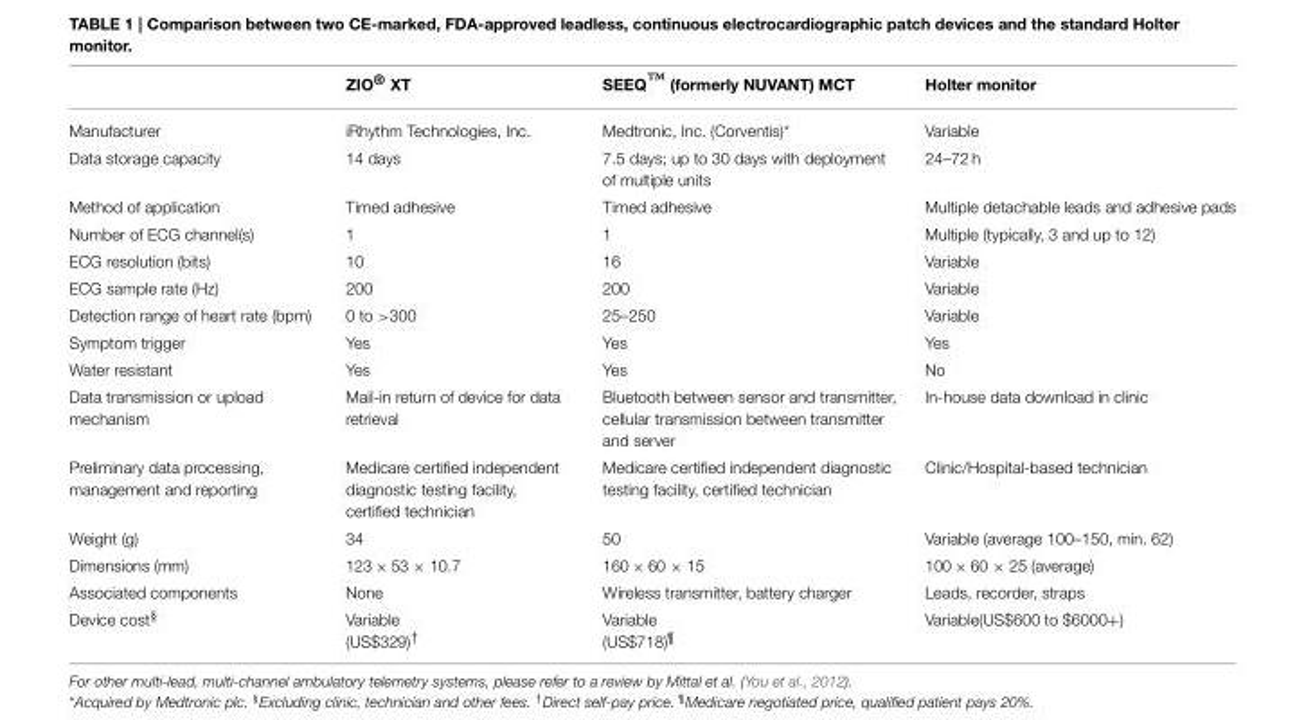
<table><thead><tr><td></td><td>ZIO® XT</td><td>SEEQ™ (formerly NUVANT) MCT</td><td>Holter monitor</td></tr></thead><tbody><tr><td>Manufacturer</td><td>iRhythm Technologies, Inc.</td><td>Medtronic, Inc. (Corventis)*</td><td>Variable</td></tr><tr><td>Data storage capacity</td><td>14 days</td><td>7.5 days; up to 30 days with deployment of multiple units</td><td>24–72 h</td></tr><tr><td>Method of application</td><td>Timed adhesive</td><td>Timed adhesive</td><td>Multiple detachable leads and adhesive pads</td></tr><tr><td>Number of ECG channel(s)</td><td>1</td><td>1</td><td>Multiple (typically, 3 and up to 12)</td></tr><tr><td>ECG resolution (bits)</td><td>10</td><td>16</td><td>Variable</td></tr><tr><td>ECG sample rate (Hz)</td><td>200</td><td>200</td><td>Variable</td></tr><tr><td>Detection range of heart rate (bpm)</td><td>0 to &gt;300</td><td>25–250</td><td>Variable</td></tr><tr><td>Symptom trigger</td><td>Yes</td><td>Yes</td><td>Yes</td></tr><tr><td>Water resistant</td><td>Yes</td><td>Yes</td><td>No</td></tr><tr><td>Data transmission or upload mechanism</td><td>Mail-in return of device for data retrieval</td><td>Bluetooth between sensor and transmitter, cellular transmission between transmitter and server</td><td>In-house data download in clinic</td></tr><tr><td>Preliminary data processing, management and reporting</td><td>Medicare certified independent diagnostic testing facility, certified technician</td><td>Medicare certified independent diagnostic testing facility, certified technician</td><td>Clinic/Hospital-based technician</td></tr><tr><td>Weight (g)</td><td>34</td><td>50</td><td>Variable (average 100–150, min. 62)</td></tr><tr><td>Dimensions (mm)</td><td>123 × 53 × 10.7</td><td>160 × 60 × 15</td><td>100 × 60 × 25 (average)</td></tr><tr><td>Associated components</td><td>None</td><td>Wireless transmitter, battery charger</td><td>Leads, recorder, straps</td></tr><tr><td>Device cost<sup>§</sup></td><td>Variable (US$329)<sup>†</sup></td><td>Variable (US$718)<sup>¶</sup></td><td>Variable(US$600 to $6000+)</td></tr></tbody></table>